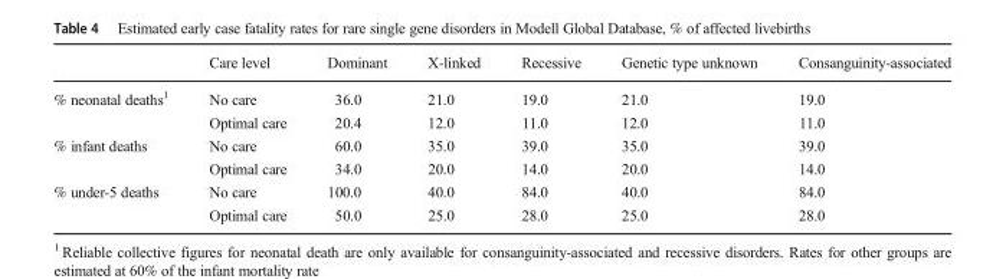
<table><thead><tr><td></td><td>Care level</td><td>Dominant</td><td>X-linked</td><td>Recessive</td><td>Genetic type unknown</td><td>Consanguinity-associated</td></tr></thead><tbody><tr><td rowspan="2">% neonatal deaths<sup>1</sup></td><td>No care</td><td>36.0</td><td>21.0</td><td>19.0</td><td>21.0</td><td>19.0</td></tr><tr><td>Optimal care</td><td>20.4</td><td>12.0</td><td>11.0</td><td>12.0</td><td>11.0</td></tr><tr><td rowspan="2">% infant deaths</td><td>No care</td><td>60.0</td><td>35.0</td><td>39.0</td><td>35.0</td><td>39.0</td></tr><tr><td>Optimal care</td><td>34.0</td><td>20.0</td><td>14.0</td><td>20.0</td><td>14.0</td></tr><tr><td rowspan="2">% under-5 deaths</td><td>No care</td><td>100.0</td><td>40.0</td><td>84.0</td><td>40.0</td><td>84.0</td></tr><tr><td>Optimal care</td><td>50.0</td><td>25.0</td><td>28.0</td><td>25.0</td><td>28.0</td></tr></tbody></table>